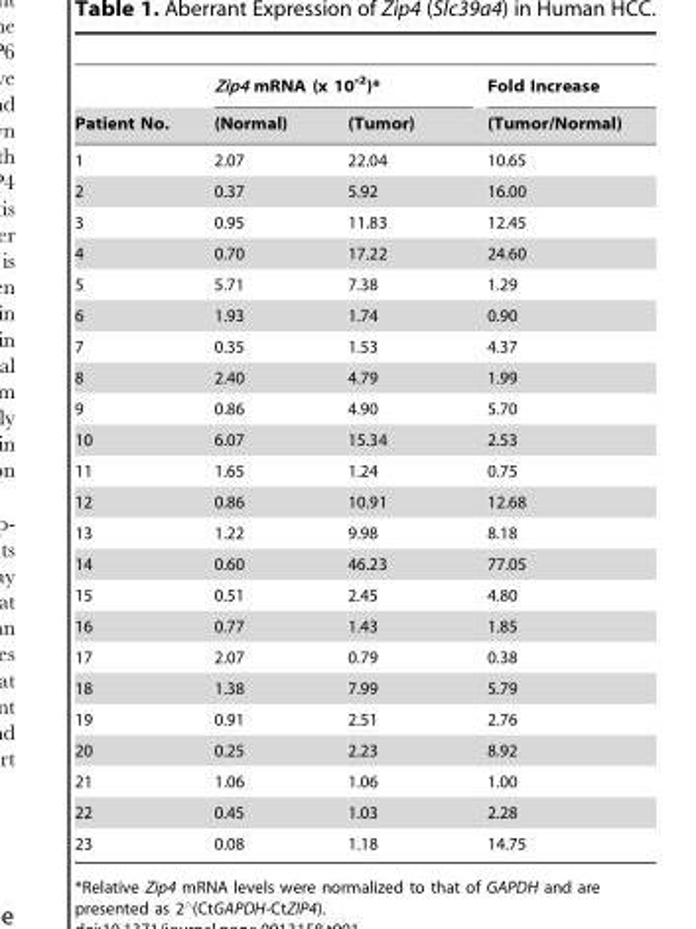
<table><thead><tr><td rowspan="2">Patient No.</td><td colspan="2">Zip4 mRNA (x 10<sup>-2</sup>)*</td><td rowspan="2">Fold Increase (Tumor/Normal)</td></tr><tr><td>(Normal)</td><td>(Tumor)</td></tr></thead><tbody><tr><td>1</td><td>2.07</td><td>22.04</td><td>10.65</td></tr><tr><td>2</td><td>0.37</td><td>5.92</td><td>16.00</td></tr><tr><td>3</td><td>0.95</td><td>11.83</td><td>12.45</td></tr><tr><td>4</td><td>0.70</td><td>17.22</td><td>24.60</td></tr><tr><td>5</td><td>5.71</td><td>7.38</td><td>1.29</td></tr><tr><td>6</td><td>1.93</td><td>1.74</td><td>0.90</td></tr><tr><td>7</td><td>0.35</td><td>1.53</td><td>4.37</td></tr><tr><td>8</td><td>2.40</td><td>4.79</td><td>1.99</td></tr><tr><td>9</td><td>0.86</td><td>4.90</td><td>5.70</td></tr><tr><td>10</td><td>6.07</td><td>15.34</td><td>2.53</td></tr><tr><td>11</td><td>1.65</td><td>1.24</td><td>0.75</td></tr><tr><td>12</td><td>0.86</td><td>10.91</td><td>12.68</td></tr><tr><td>13</td><td>1.22</td><td>9.98</td><td>8.18</td></tr><tr><td>14</td><td>0.60</td><td>46.23</td><td>77.05</td></tr><tr><td>15</td><td>0.51</td><td>2.45</td><td>4.80</td></tr><tr><td>16</td><td>0.77</td><td>1.43</td><td>1.85</td></tr><tr><td>17</td><td>2.07</td><td>0.79</td><td>0.38</td></tr><tr><td>18</td><td>1.38</td><td>7.99</td><td>5.79</td></tr><tr><td>19</td><td>0.91</td><td>2.51</td><td>2.76</td></tr><tr><td>20</td><td>0.25</td><td>2.23</td><td>8.92</td></tr><tr><td>21</td><td>1.06</td><td>1.06</td><td>1.00</td></tr><tr><td>22</td><td>0.45</td><td>1.03</td><td>2.28</td></tr><tr><td>23</td><td>0.08</td><td>1.18</td><td>14.75</td></tr></tbody></table>